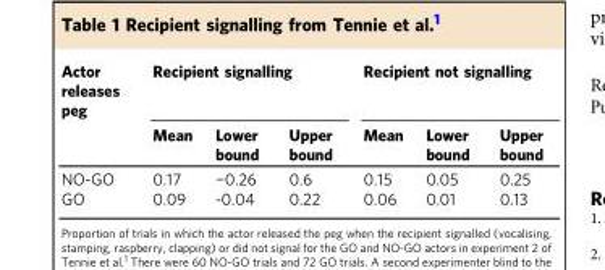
<table><thead><tr><td rowspan="2">Actor releases peg</td><td colspan="3">Recipient signalling</td><td colspan="3">Recipient not signalling</td></tr><tr><td>Mean</td><td>Lower bound</td><td>Upper bound</td><td>Mean</td><td>Lower bound</td><td>Upper bound</td></tr></thead><tbody><tr><td>NO-GO</td><td>0.17</td><td>−0.26</td><td>0.6</td><td>0.15</td><td>0.05</td><td>0.25</td></tr><tr><td>GO</td><td>0.09</td><td>-0.04</td><td>0.22</td><td>0.06</td><td>0.01</td><td>0.13</td></tr></tbody></table>